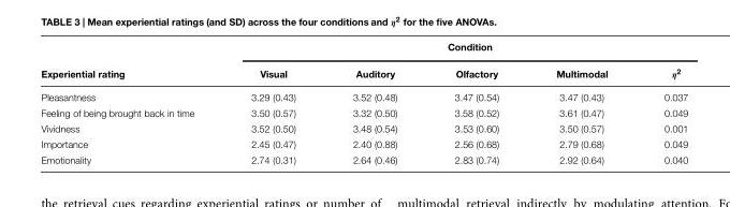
<table><thead><tr><td rowspan="2">Experiential rating</td><td colspan="5">Condition</td></tr><tr><td>Visual</td><td>Auditory</td><td>Olfactory</td><td>Multimodal</td><td>η<sup>2</sup></td></tr></thead><tbody><tr><td>Pleasantness</td><td>3.29 (0.43)</td><td>3.52 (0.48)</td><td>3.47 (0.54)</td><td>3.47 (0.43)</td><td>0.037</td></tr><tr><td>Feeling of being brought back in time</td><td>3.50 (0.57)</td><td>3.32 (0.50)</td><td>3.58 (0.52)</td><td>3.61 (0.47)</td><td>0.049</td></tr><tr><td>Vividness</td><td>3.52 (0.50)</td><td>3.48 (0.54)</td><td>3.53 (0.60)</td><td>3.50 (0.57)</td><td>0.001</td></tr><tr><td>Importance</td><td>2.45 (0.47)</td><td>2.40 (0.88)</td><td>2.56 (0.68)</td><td>2.79 (0.68)</td><td>0.049</td></tr><tr><td>Emotionality</td><td>2.74 (0.31)</td><td>2.64 (0.46)</td><td>2.83 (0.74)</td><td>2.92 (0.64)</td><td>0.040</td></tr></tbody></table>